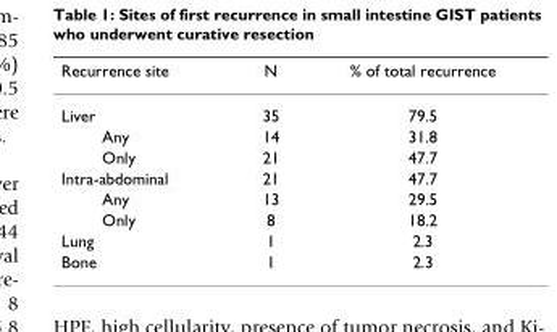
<table><thead><tr><td>Recurrence site</td><td>N</td><td>% of total recurrence</td></tr></thead><tbody><tr><td>Liver</td><td>35</td><td>79.5</td></tr><tr><td>Any</td><td>14</td><td>31.8</td></tr><tr><td>Only</td><td>21</td><td>47.7</td></tr><tr><td>Intra-abdominal</td><td>21</td><td>47.7</td></tr><tr><td>Any</td><td>13</td><td>29.5</td></tr><tr><td>Only</td><td>8</td><td>18.2</td></tr><tr><td>Lung</td><td>1</td><td>2.3</td></tr><tr><td>Bone</td><td>1</td><td>2.3</td></tr></tbody></table>